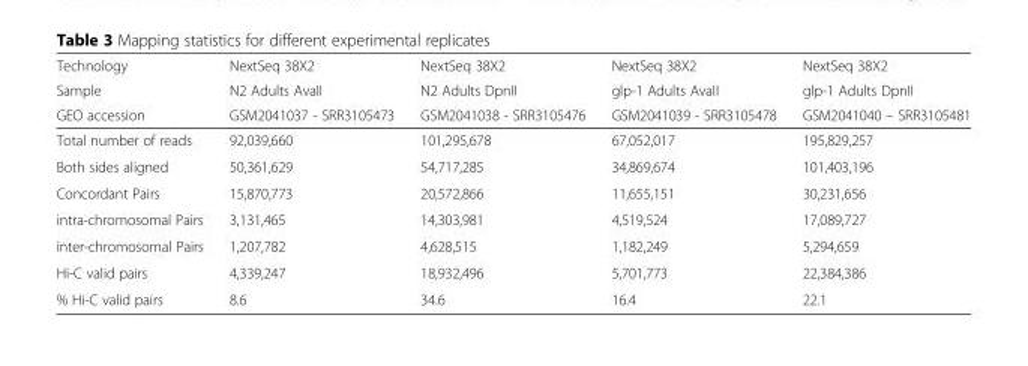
<table><thead><tr><td rowspan="3">Technology Sample GEO accession</td><td rowspan="3">NextSeq 38X2 N2 Adults AvaII GSM2041037 - SRR3105473</td><td rowspan="3">NextSeq 38X2 N2 Adults DpnII GSM2041038 - SRR3105476</td><td rowspan="3">NextSeq 38X2 glp-1 Adults AvaII GSM2041039 - SRR3105478</td><td rowspan="3">NextSeq 38X2 glp-1 Adults DpnII GSM2041040 – SRR3105481</td></tr><tr></tr><tr></tr></thead><tbody><tr><td>Total number of reads</td><td>92,039,660</td><td>101,295,678</td><td>67,052,017</td><td>195,829,257</td></tr><tr><td>Both sides aligned</td><td>50,361,629</td><td>54,717,285</td><td>34,869,674</td><td>101,403,196</td></tr><tr><td>Concordant Pairs</td><td>15,870,773</td><td>20,572,866</td><td>11,655,151</td><td>30,231,656</td></tr><tr><td>intra-chromosomal Pairs</td><td>3,131,465</td><td>14,303,981</td><td>4,519,524</td><td>17,089,727</td></tr><tr><td>inter-chromosomal Pairs</td><td>1,207,782</td><td>4,628,515</td><td>1,182,249</td><td>5,294,659</td></tr><tr><td>Hi-C valid pairs</td><td>4,339,247</td><td>18,932,496</td><td>5,701,773</td><td>22,384,386</td></tr><tr><td>% Hi-C valid pairs</td><td>8.6</td><td>34.6</td><td>16.4</td><td>22.1</td></tr></tbody></table>